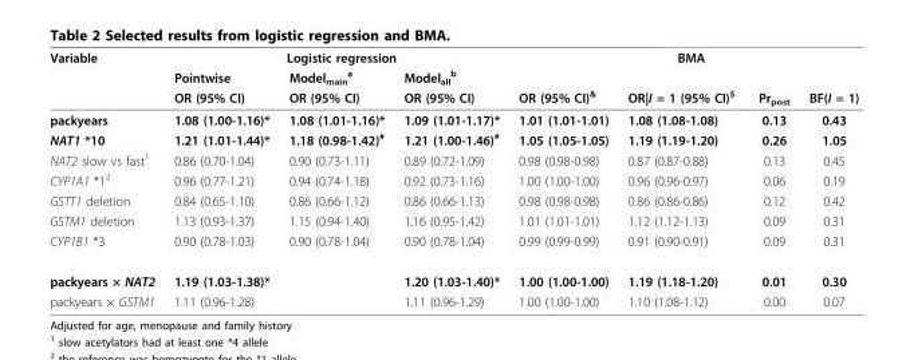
<table><thead><tr><td rowspan="3">Variable</td><td colspan="3">Logistic regression</td><td colspan="4">BMA</td></tr><tr><td rowspan="2">Pointwise OR (95% CI)</td><td rowspan="2">Model<sub>main</sub> <sup>a</sup> OR (95% CI)</td><td rowspan="2">Model<sub>all</sub> <sup>b</sup> OR (95% CI)</td><td rowspan="2">OR (95% CI)<sup>&amp;</sup></td><td rowspan="2">OR|I = 1 (95% CI)<sup>$</sup></td><td rowspan="2">Pr<sub>post</sub></td><td rowspan="2">BF(I = 1)</td></tr><tr></tr></thead><tbody><tr><td>packyears</td><td>1.08 (1.00-1.16)*</td><td>1.08 (1.01-1.16)*</td><td>1.09 (1.01-1.17)*</td><td>1.01 (1.01-1.01)</td><td>1.08 (1.08-1.08)</td><td>0.13</td><td>0.43</td></tr><tr><td>NAT1 *10</td><td>1.21 (1.01-1.44)*</td><td>1.18 (0.98-1.42)<sup>#</sup></td><td>1.21 (1.00-1.46)<sup>#</sup></td><td>1.05 (1.05-1.05)</td><td>1.19 (1.19-1.20)</td><td>0.26</td><td>1.05</td></tr><tr><td>NAT2 slow vs fast<sup>1</sup></td><td>0.86 (0.70-1.04)</td><td>0.90 (0.73-1.11)</td><td>0.89 (0.72-1.09)</td><td>0.98 (0.98-0.98)</td><td>0.87 (0.87-0.88)</td><td>0.13</td><td>0.45</td></tr><tr><td>CYP1A1 *1<sup>2</sup></td><td>0.96 (0.77-1.21)</td><td>0.94 (0.74-1.18)</td><td>0.92 (0.73-1.16)</td><td>1.00 (1.00-1.00)</td><td>0.96 (0.96-0.97)</td><td>0.06</td><td>0.19</td></tr><tr><td>GSTT1 deletion</td><td>0.84 (0.65-1.10)</td><td>0.86 (0.66-1.12)</td><td>0.86 (0.66-1.13)</td><td>0.98 (0.98-0.98)</td><td>0.86 (0.86-0.86)</td><td>0.12</td><td>0.42</td></tr><tr><td>GSTM1 deletion</td><td>1.13 (0.93-1.37)</td><td>1.15 (0.94-1.40)</td><td>1.16 (0.95-1.42)</td><td>1.01 (1.01-1.01)</td><td>1.12 (1.12-1.13)</td><td>0.09</td><td>0.31</td></tr><tr><td>CYP1B1 *3</td><td>0.90 (0.78-1.03)</td><td>0.90 (0.78-1.04)</td><td>0.90 (0.78-1.04)</td><td>0.99 (0.99-0.99)</td><td>0.91 (0.90-0.91)</td><td>0.09</td><td>0.31</td></tr><tr><td>packyears × NAT2</td><td>1.19 (1.03-1.38)*</td><td></td><td>1.20 (1.03-1.40)*</td><td>1.00 (1.00-1.00)</td><td>1.19 (1.18-1.20)</td><td>0.01</td><td>0.30</td></tr><tr><td>packyears × GSTM1</td><td>1.11 (0.96-1.28)</td><td></td><td>1.11 (0.96-1.29)</td><td>1.00 (1.00-1.00)</td><td>1.10 (1.08-1.12)</td><td>0.00</td><td>0.07</td></tr></tbody></table>